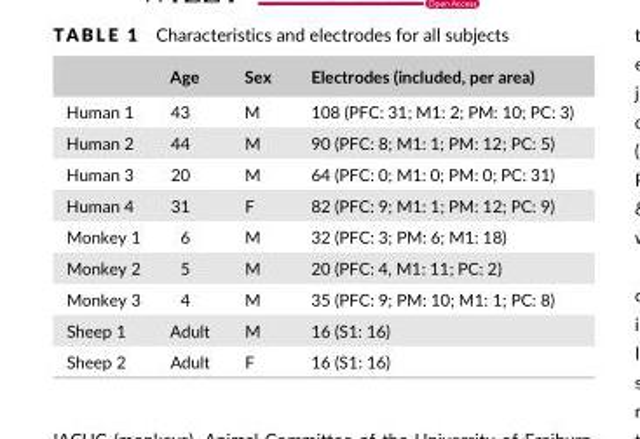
<table><thead><tr><td></td><td>Age</td><td>Sex</td><td>Electrodes (included, per area)</td></tr></thead><tbody><tr><td>Human 1</td><td>43</td><td>M</td><td>108 (PFC: 31; M1: 2; PM: 10; PC: 3)</td></tr><tr><td>Human 2</td><td>44</td><td>M</td><td>90 (PFC: 8; M1: 1; PM: 12; PC: 5)</td></tr><tr><td>Human 3</td><td>20</td><td>M</td><td>64 (PFC: 0; M1: 0; PM: 0; PC: 31)</td></tr><tr><td>Human 4</td><td>31</td><td>F</td><td>82 (PFC: 9; M1: 1; PM: 12; PC: 9)</td></tr><tr><td>Monkey 1</td><td>6</td><td>M</td><td>32 (PFC: 3; PM: 6; M1: 18)</td></tr><tr><td>Monkey 2</td><td>5</td><td>M</td><td>20 (PFC: 4, M1: 11; PC: 2)</td></tr><tr><td>Monkey 3</td><td>4</td><td>M</td><td>35 (PFC: 9; PM: 10; M1: 1; PC: 8)</td></tr><tr><td>Sheep 1</td><td>Adult</td><td>M</td><td>16 (S1: 16)</td></tr><tr><td>Sheep 2</td><td>Adult</td><td>F</td><td>16 (S1: 16)</td></tr></tbody></table>